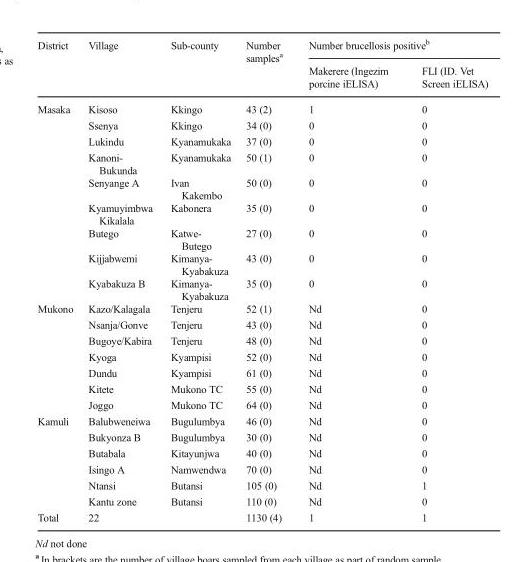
<table><thead><tr><td rowspan="2">District</td><td rowspan="2">Village</td><td rowspan="2">Sub-county</td><td rowspan="2">Number samples<sup>a</sup></td><td colspan="2">Number brucellosis positive<sup>b</sup></td></tr><tr><td>Makerere (Ingezim porcine iELISA)</td><td>FLI (ID. Vet Screen iELISA)</td></tr></thead><tbody><tr><td rowspan="9">Masaka</td><td>Kisoso</td><td>Kkingo</td><td>43 (2)</td><td>1</td><td>0</td></tr><tr><td>Ssenya</td><td>Kkingo</td><td>34 (0)</td><td>0</td><td>0</td></tr><tr><td>Lukindu</td><td>Kyanamukaka</td><td>37 (0)</td><td>0</td><td>0</td></tr><tr><td>Kanoni- Bukunda</td><td>Kyanamukaka</td><td>50 (1)</td><td>0</td><td>0</td></tr><tr><td>Senyange A</td><td>Ivan Kakembo</td><td>50 (0)</td><td>0</td><td>0</td></tr><tr><td>Kyamuyimbwa Kikalala</td><td>Kabonera</td><td>35 (0)</td><td>0</td><td>0</td></tr><tr><td>Butego</td><td>Katwe- Butego</td><td>27 (0)</td><td>0</td><td>0</td></tr><tr><td>Kijjabwemi</td><td>Kimanya- Kyabakuza</td><td>43 (0)</td><td>0</td><td>0</td></tr><tr><td>Kyabakuza B</td><td>Kimanya- Kyabakuza</td><td>35 (0)</td><td>0</td><td>0</td></tr><tr><td rowspan="7">Mukono</td><td>Kazo/Kalagala</td><td>Tenjeru</td><td>52 (1)</td><td>Nd</td><td>0</td></tr><tr><td>Nsanja/Gonve</td><td>Tenjeru</td><td>43 (0)</td><td>Nd</td><td>0</td></tr><tr><td>Bugoye/Kabira</td><td>Tenjeru</td><td>48 (0)</td><td>Nd</td><td>0</td></tr><tr><td>Kyoga</td><td>Kyampisi</td><td>52 (0)</td><td>Nd</td><td>0</td></tr><tr><td>Dundu</td><td>Kyampisi</td><td>61 (0)</td><td>Nd</td><td>0</td></tr><tr><td>Kitete</td><td>Mukono TC</td><td>55 (0)</td><td>Nd</td><td>0</td></tr><tr><td>Joggo</td><td>Mukono TC</td><td>64 (0)</td><td>Nd</td><td>0</td></tr><tr><td rowspan="6">Kamuli</td><td>Balubweneiwa</td><td>Bugulumbya</td><td>46 (0)</td><td>Nd</td><td>0</td></tr><tr><td>Bukyonza B</td><td>Bugulumbya</td><td>30 (0)</td><td>Nd</td><td>0</td></tr><tr><td>Butabala</td><td>Kitayunjwa</td><td>40 (0)</td><td>Nd</td><td>0</td></tr><tr><td>Isingo A</td><td>Namwendwa</td><td>70 (0)</td><td>Nd</td><td>0</td></tr><tr><td>Ntansi</td><td>Butansi</td><td>105 (0)</td><td>Nd</td><td>1</td></tr><tr><td>Kantu zone</td><td>Butansi</td><td>110 (0)</td><td>Nd</td><td>0</td></tr><tr><td>Total</td><td>22</td><td></td><td>1130 (4)</td><td>1</td><td>1</td></tr></tbody></table>